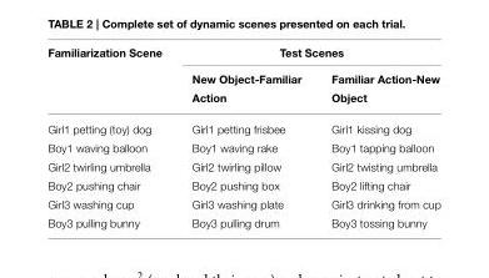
<table><thead><tr><td rowspan="2">Familiarization Scene</td><td colspan="2">Test Scenes</td></tr><tr><td>New Object-Familiar Action</td><td>Familiar Action-New Object</td></tr></thead><tbody><tr><td>Girl1 petting (toy) dog</td><td>Girl1 petting frisbee</td><td>Girl1 kissing dog</td></tr><tr><td>Boy1 waving balloon</td><td>Boy1 waving rake</td><td>Boy1 tapping balloon</td></tr><tr><td>Girl2 twirling umbrella</td><td>Girl2 twirling pillow</td><td>Girl2 twisting umbrella</td></tr><tr><td>Boy2 pushing chair</td><td>Boy2 pushing box</td><td>Boy2 lifting chair</td></tr><tr><td>Girl3 washing cup</td><td>Girl3 washing plate</td><td>Girl3 drinking from cup</td></tr><tr><td>Boy3 pulling bunny</td><td>Boy3 pulling drum</td><td>Boy3 tossing bunny</td></tr></tbody></table>